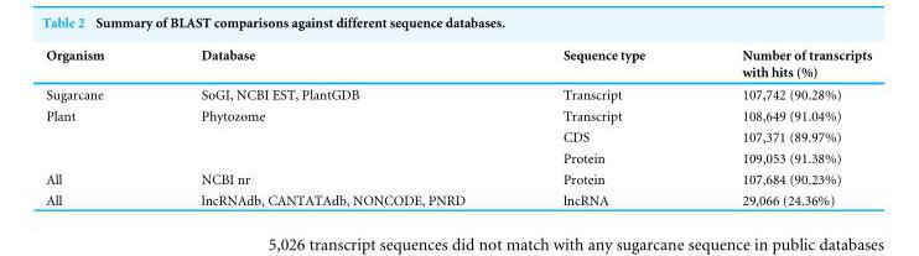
<table><thead><tr><td>Organism</td><td>Database</td><td>Sequence type</td><td>Number of transcripts with hits (%)</td></tr></thead><tbody><tr><td>Sugarcane</td><td>SoGI, NCBI EST, PlantGDB</td><td>Transcript</td><td>107,742 (90.28%)</td></tr><tr><td rowspan="3">Plant</td><td>Phytozome</td><td>Transcript</td><td>108,649 (91.04%)</td></tr><tr><td></td><td>CDS</td><td>107,371 (89.97%)</td></tr><tr><td></td><td>Protein</td><td>109,053 (91.38%)</td></tr><tr><td>All</td><td>NCBI nr</td><td>Protein</td><td>107,684 (90.23%)</td></tr><tr><td>All</td><td>lncRNAdb, CANTATAdb, NONCODE, PNRD</td><td>lncRNA</td><td>29,066 (24.36%)</td></tr></tbody></table>